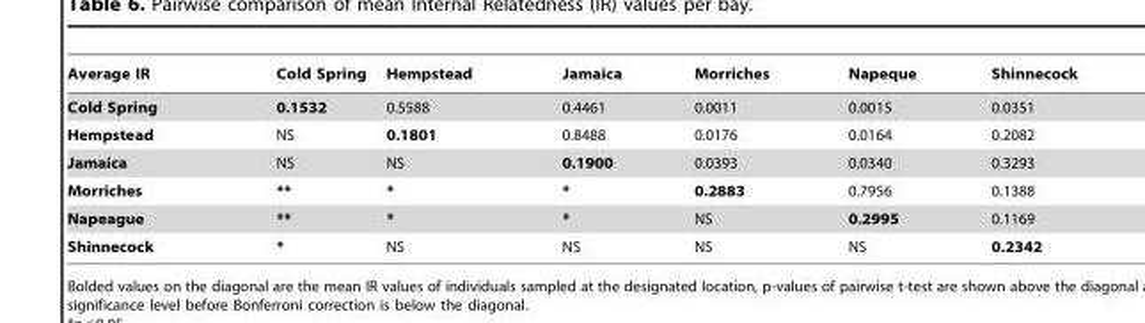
<table><thead><tr><td>Average IR</td><td>Cold Spring</td><td>Hempstead</td><td>Jamaica</td><td>Morriches</td><td>Napeque</td><td>Shinnecock</td></tr></thead><tbody><tr><td>Cold Spring</td><td>0.1532</td><td>0.5588</td><td>0.4461</td><td>0.0011</td><td>0.0015</td><td>0.0351</td></tr><tr><td>Hempstead</td><td>NS</td><td>0.1801</td><td>0.8488</td><td>0.0176</td><td>0.0164</td><td>0.2082</td></tr><tr><td>Jamaica</td><td>NS</td><td>NS</td><td>0.1900</td><td>0.0393</td><td>0.0340</td><td>0.3293</td></tr><tr><td>Morriches</td><td>**</td><td>*</td><td>*</td><td>0.2883</td><td>0.7956</td><td>0.1388</td></tr><tr><td>Napeague</td><td>**</td><td>*</td><td>*</td><td>NS</td><td>0.2995</td><td>0.1169</td></tr><tr><td>Shinnecock</td><td>*</td><td>NS</td><td>NS</td><td>NS</td><td>NS</td><td>0.2342</td></tr></tbody></table>